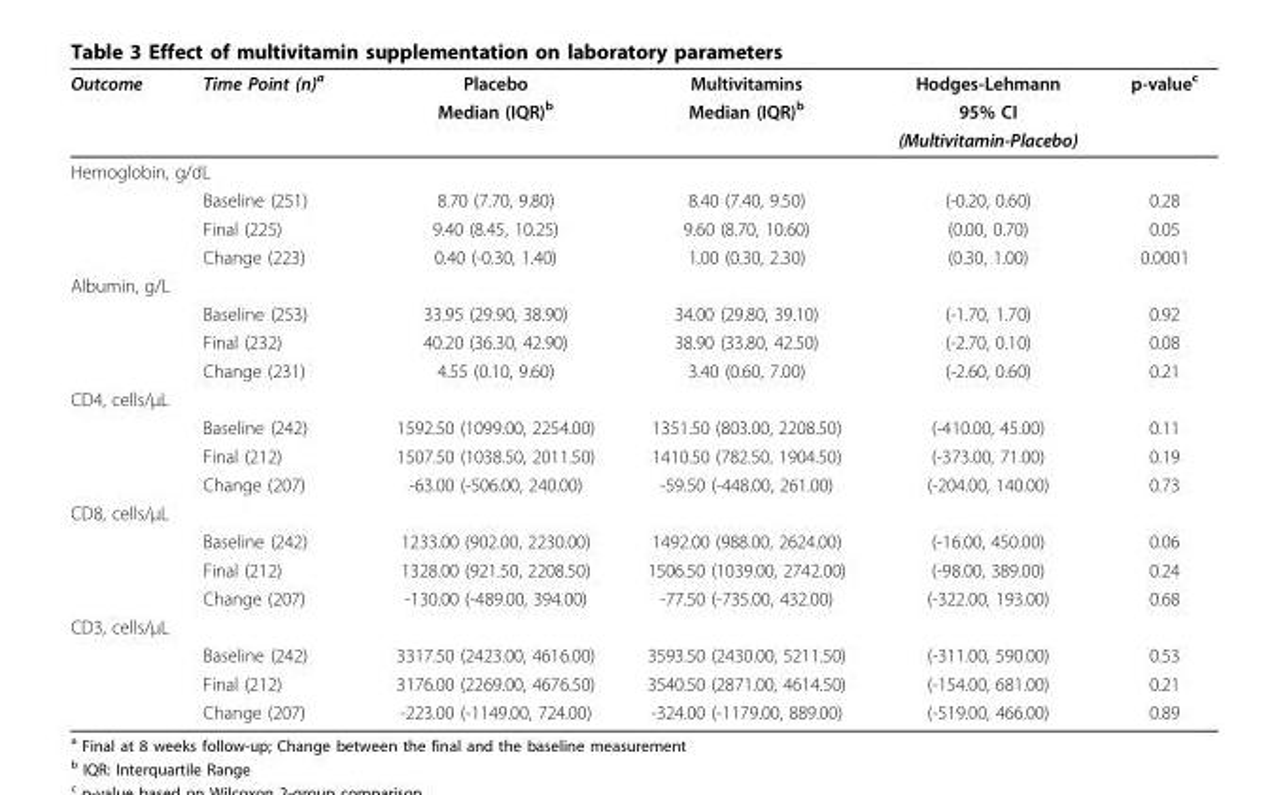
<table><thead><tr><td rowspan="3">Outcome</td><td rowspan="3">Time Point (n)<sup>a</sup></td><td rowspan="3">Placebo Median (IQR)<sup>b</sup></td><td rowspan="3">Multivitamins Median (IQR)<sup>b</sup></td><td rowspan="3">Hodges-Lehmann 95% CI (Multivitamin-Placebo)</td><td rowspan="3">p-value<sup>c</sup></td></tr><tr></tr><tr></tr></thead><tbody><tr><td colspan="6">Hemoglobin, g/dL</td></tr><tr><td></td><td>Baseline (251)</td><td>8.70 (7.70, 9.80)</td><td>8.40 (7.40, 9.50)</td><td>(-0.20, 0.60)</td><td>0.28</td></tr><tr><td></td><td>Final (225)</td><td>9.40 (8.45, 10.25)</td><td>9.60 (8.70, 10.60)</td><td>(0.00, 0.70)</td><td>0.05</td></tr><tr><td></td><td>Change (223)</td><td>0.40 (-0.30, 1.40)</td><td>1.00 (0.30, 2.30)</td><td>(0.30, 1.00)</td><td>0.0001</td></tr><tr><td colspan="6">Albumin, g/L</td></tr><tr><td></td><td>Baseline (253)</td><td>33.95 (29.90, 38.90)</td><td>34.00 (29.80, 39.10)</td><td>(-1.70, 1.70)</td><td>0.92</td></tr><tr><td></td><td>Final (232)</td><td>40.20 (36.30, 42.90)</td><td>38.90 (33.80, 42.50)</td><td>(-2.70, 0.10)</td><td>0.08</td></tr><tr><td></td><td>Change (231)</td><td>4.55 (0.10, 9.60)</td><td>3.40 (0.60, 7.00)</td><td>(-2.60, 0.60)</td><td>0.21</td></tr><tr><td colspan="6">CD4, cells/μL</td></tr><tr><td></td><td>Baseline (242)</td><td>1592.50 (1099.00, 2254.00)</td><td>1351.50 (803.00, 2208.50)</td><td>(-410.00, 45.00)</td><td>0.11</td></tr><tr><td></td><td>Final (212)</td><td>1507.50 (1038.50, 2011.50)</td><td>1410.50 (782.50, 1904.50)</td><td>(-373.00, 71.00)</td><td>0.19</td></tr><tr><td></td><td>Change (207)</td><td>-63.00 (-506.00, 240.00)</td><td>-59.50 (-448.00, 261.00)</td><td>(-204.00, 140.00)</td><td>0.73</td></tr><tr><td colspan="6">CD8, cells/μL</td></tr><tr><td></td><td>Baseline (242)</td><td>1233.00 (902.00, 2230.00)</td><td>1492.00 (988.00, 2624.00)</td><td>(-16.00, 450.00)</td><td>0.06</td></tr><tr><td></td><td>Final (212)</td><td>1328.00 (921.50, 2208.50)</td><td>1506.50 (1039.00, 2742.00)</td><td>(-98.00, 389.00)</td><td>0.24</td></tr><tr><td></td><td>Change (207)</td><td>-130.00 (-489.00, 394.00)</td><td>-77.50 (-735.00, 432.00)</td><td>(-322.00, 193.00)</td><td>0.68</td></tr><tr><td colspan="6">CD3, cells/μL</td></tr><tr><td></td><td>Baseline (242)</td><td>3317.50 (2423.00, 4616.00)</td><td>3593.50 (2430.00, 5211.50)</td><td>(-311.00, 590.00)</td><td>0.53</td></tr><tr><td></td><td>Final (212)</td><td>3176.00 (2269.00, 4676.50)</td><td>3540.50 (2871.00, 4614.50)</td><td>(-154.00, 681.00)</td><td>0.21</td></tr><tr><td></td><td>Change (207)</td><td>-223.00 (-1149.00, 724.00)</td><td>-324.00 (-1179.00, 889.00)</td><td>(-519.00, 466.00)</td><td>0.89</td></tr></tbody></table>